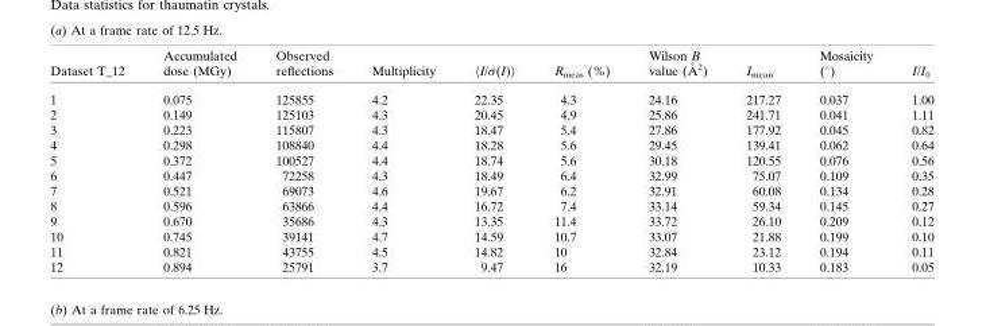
<table><thead><tr><td>Dataset T_12</td><td>Accumulated dose (MGy)</td><td>Observed reflections</td><td>Multiplicity</td><td>〈I/σ(I)〉</td><td>R<sub>meas</sub> (%)</td><td>Wilson B value (A˚ 2)</td><td>I<sub>mean</sub></td><td>Mosaicity (°)</td><td>I/I<sub>0</sub></td></tr></thead><tbody><tr><td>1</td><td>0.075</td><td>125855</td><td>4.2</td><td>22.35</td><td>4.3</td><td>24.16</td><td>217.27</td><td>0.037</td><td>1.00</td></tr><tr><td>2</td><td>0.149</td><td>125103</td><td>4.3</td><td>20.45</td><td>4.9</td><td>25.86</td><td>241.71</td><td>0.041</td><td>1.11</td></tr><tr><td>3</td><td>0.223</td><td>115807</td><td>4.3</td><td>18.47</td><td>5.4</td><td>27.86</td><td>177.92</td><td>0.045</td><td>0.82</td></tr><tr><td>4</td><td>0.298</td><td>108840</td><td>4.4</td><td>18.28</td><td>5.6</td><td>29.45</td><td>139.41</td><td>0.062</td><td>0.64</td></tr><tr><td>5</td><td>0.372</td><td>100527</td><td>4.4</td><td>18.74</td><td>5.6</td><td>30.18</td><td>120.55</td><td>0.076</td><td>0.56</td></tr><tr><td>6</td><td>0.447</td><td>72258</td><td>4.3</td><td>18.49</td><td>6.4</td><td>32.99</td><td>75.07</td><td>0.109</td><td>0.35</td></tr><tr><td>7</td><td>0.521</td><td>69073</td><td>4.6</td><td>19.67</td><td>6.2</td><td>32.91</td><td>60.08</td><td>0.134</td><td>0.28</td></tr><tr><td>8</td><td>0.596</td><td>63866</td><td>4.4</td><td>16.72</td><td>7.4</td><td>33.14</td><td>59.34</td><td>0.145</td><td>0.27</td></tr><tr><td>9</td><td>0.670</td><td>35686</td><td>4.3</td><td>13.35</td><td>11.4</td><td>33.72</td><td>26.10</td><td>0.209</td><td>0.12</td></tr><tr><td>10</td><td>0.745</td><td>39141</td><td>4.7</td><td>14.59</td><td>10.7</td><td>33.07</td><td>21.88</td><td>0.199</td><td>0.10</td></tr><tr><td>11</td><td>0.821</td><td>43755</td><td>4.5</td><td>14.82</td><td>10</td><td>32.84</td><td>23.12</td><td>0.194</td><td>0.11</td></tr><tr><td>12</td><td>0.894</td><td>25791</td><td>3.7</td><td>9.47</td><td>16</td><td>32.19</td><td>10.33</td><td>0.183</td><td>0.05</td></tr></tbody></table>